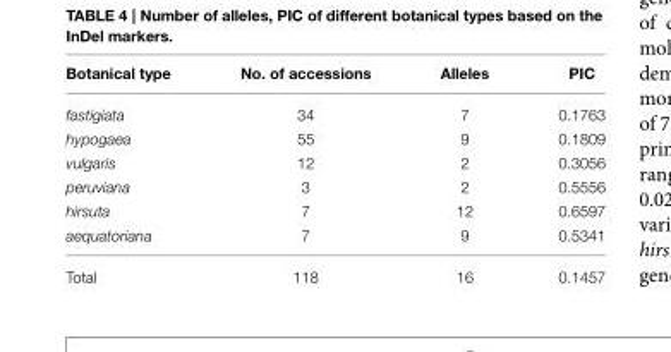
<table><thead><tr><td>Botanical type</td><td>No. of accessions</td><td>Alleles</td><td>PIC</td></tr></thead><tbody><tr><td>fastigiata</td><td>34</td><td>7</td><td>0.1763</td></tr><tr><td>hypogaea</td><td>55</td><td>9</td><td>0.1809</td></tr><tr><td>vulgaris</td><td>12</td><td>2</td><td>0.3056</td></tr><tr><td>peruviana</td><td>3</td><td>2</td><td>0.5556</td></tr><tr><td>hirsuta</td><td>7</td><td>12</td><td>0.6597</td></tr><tr><td>aequatoriana</td><td>7</td><td>9</td><td>0.5341</td></tr><tr><td>Total</td><td>118</td><td>16</td><td>0.1457</td></tr></tbody></table>